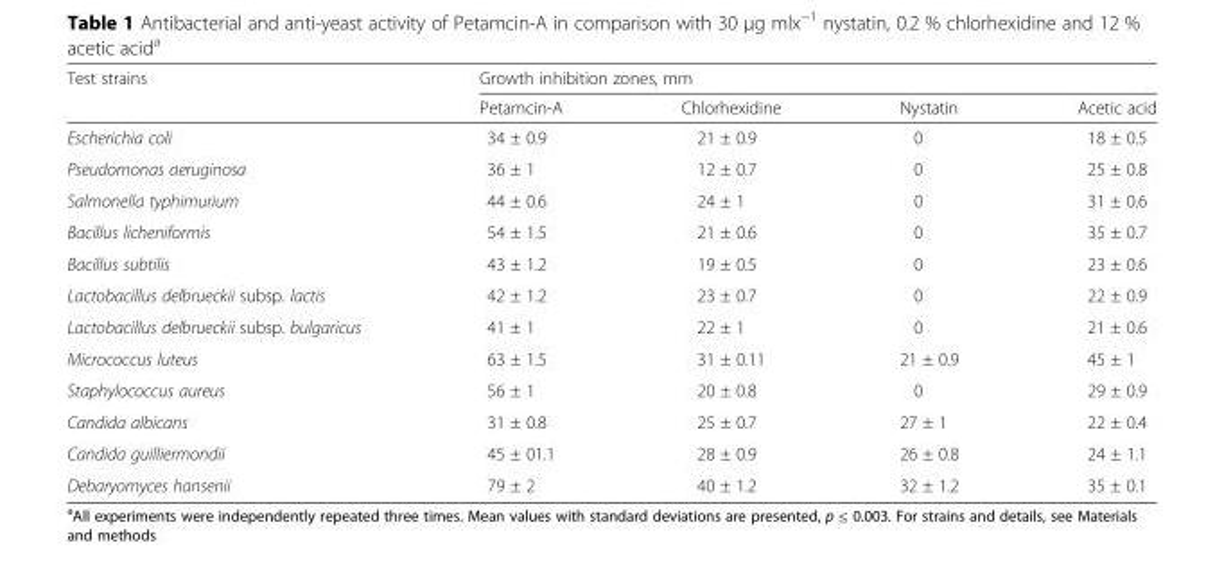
<table><thead><tr><td rowspan="2">Test strains</td><td colspan="4">Growth inhibition zones, mm</td></tr><tr><td>Petamcin-A</td><td>Chlorhexidine</td><td>Nystatin</td><td>Acetic acid</td></tr></thead><tbody><tr><td>Escherichia coli</td><td>34 ± 0.9</td><td>21 ± 0.9</td><td>0</td><td>18 ± 0.5</td></tr><tr><td>Pseudomonas aeruginosa</td><td>36 ± 1</td><td>12 ± 0.7</td><td>0</td><td>25 ± 0.8</td></tr><tr><td>Salmonella typhimurium</td><td>44 ± 0.6</td><td>24 ± 1</td><td>0</td><td>31 ± 0.6</td></tr><tr><td>Bacillus licheniformis</td><td>54 ± 1.5</td><td>21 ± 0.6</td><td>0</td><td>35 ± 0.7</td></tr><tr><td>Bacillus subtilis</td><td>43 ± 1.2</td><td>19 ± 0.5</td><td>0</td><td>23 ± 0.6</td></tr><tr><td>Lactobacillus delbrueckii subsp. lactis</td><td>42 ± 1.2</td><td>23 ± 0.7</td><td>0</td><td>22 ± 0.9</td></tr><tr><td>Lactobacillus delbrueckii subsp. bulgaricus</td><td>41 ± 1</td><td>22 ± 1</td><td>0</td><td>21 ± 0.6</td></tr><tr><td>Micrococcus luteus</td><td>63 ± 1.5</td><td>31 ± 0.11</td><td>21 ± 0.9</td><td>45 ± 1</td></tr><tr><td>Staphylococcus aureus</td><td>56 ± 1</td><td>20 ± 0.8</td><td>0</td><td>29 ± 0.9</td></tr><tr><td>Candida albicans</td><td>31 ± 0.8</td><td>25 ± 0.7</td><td>27 ± 1</td><td>22 ± 0.4</td></tr><tr><td>Candida guilliermondii</td><td>45 ± 01.1</td><td>28 ± 0.9</td><td>26 ± 0.8</td><td>24 ± 1.1</td></tr><tr><td>Debaryomyces hansenii</td><td>79 ± 2</td><td>40 ± 1.2</td><td>32 ± 1.2</td><td>35 ± 0.1</td></tr></tbody></table>